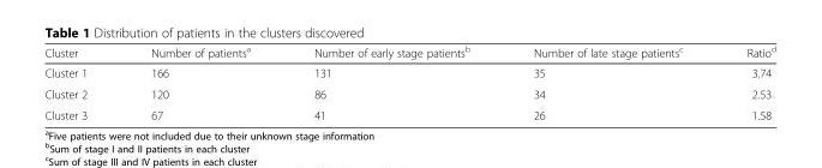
<table><thead><tr><td>Cluster</td><td>Number of patients<sup>a</sup></td><td>Number of early stage patients<sup>b</sup></td><td>Number of late stage patients<sup>c</sup></td><td>Ratio<sup>d</sup></td></tr></thead><tbody><tr><td>Cluster 1</td><td>166</td><td>131</td><td>35</td><td>3.74</td></tr><tr><td>Cluster 2</td><td>120</td><td>86</td><td>34</td><td>2.53</td></tr><tr><td>Cluster 3</td><td>67</td><td>41</td><td>26</td><td>1.58</td></tr></tbody></table>